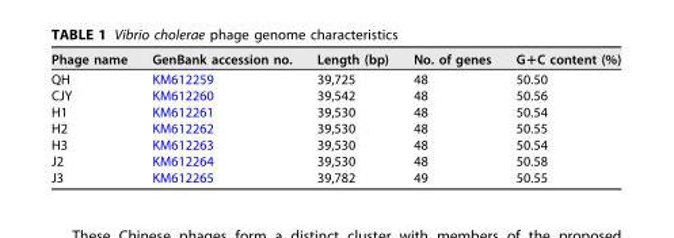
<table><thead><tr><td>Phage name</td><td>GenBank accession no.</td><td>Length (bp)</td><td>No. of genes</td><td>G+C content (%)</td></tr></thead><tbody><tr><td>QH</td><td>KM612259</td><td>39,725</td><td>48</td><td>50.50</td></tr><tr><td>CJY</td><td>KM612260</td><td>39,542</td><td>48</td><td>50.56</td></tr><tr><td>H1</td><td>KM612261</td><td>39,530</td><td>48</td><td>50.54</td></tr><tr><td>H2</td><td>KM612262</td><td>39,530</td><td>48</td><td>50.55</td></tr><tr><td>H3</td><td>KM612263</td><td>39,530</td><td>48</td><td>50.54</td></tr><tr><td>J2</td><td>KM612264</td><td>39,530</td><td>48</td><td>50.58</td></tr><tr><td>J3</td><td>KM612265</td><td>39,782</td><td>49</td><td>50.55</td></tr></tbody></table>